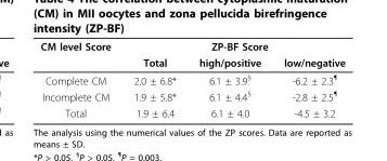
<table><thead><tr><td rowspan="2">CM level Score</td><td colspan="3">ZP-BF Score</td></tr><tr><td>Total</td><td>high/positive</td><td>low/negative</td></tr></thead><tbody><tr><td>Complete CM</td><td>2.0 ± 6.8*</td><td>6.1 ± 3.9<sup>§</sup></td><td>-6.2 ± 2.3<sup>¶</sup></td></tr><tr><td>Incomplete CM</td><td>1.9 ± 5.8*</td><td>6.1 ± 4.4<sup>§</sup></td><td>-2.8 ± 2.5<sup>¶</sup></td></tr><tr><td>Total</td><td>1.9 ± 6.4</td><td>6.1 ± 4.0</td><td>-4.5 ± 3.2</td></tr></tbody></table>